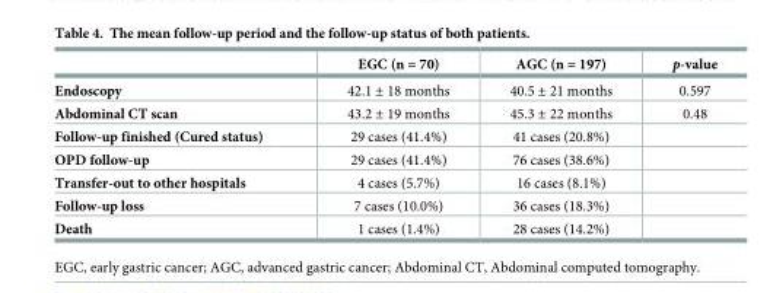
<table><thead><tr><td></td><td>EGC (n = 70)</td><td>AGC (n = 197)</td><td>p-value</td></tr></thead><tbody><tr><td>Endoscopy</td><td>42.1 ± 18 months</td><td>40.5 ± 21 months</td><td>0.597</td></tr><tr><td>Abdominal CT scan</td><td>43.2 ± 19 months</td><td>45.3 ± 22 months</td><td>0.48</td></tr><tr><td>Follow-up finished (Cured status)</td><td>29 cases (41.4%)</td><td>41 cases (20.8%)</td><td></td></tr><tr><td>OPD follow-up</td><td>29 cases (41.4%)</td><td>76 cases (38.6%)</td><td></td></tr><tr><td>Transfer-out to other hospitals</td><td>4 cases (5.7%)</td><td>16 cases (8.1%)</td><td></td></tr><tr><td>Follow-up loss</td><td>7 cases (10.0%)</td><td>36 cases (18.3%)</td><td></td></tr><tr><td>Death</td><td>1 cases (1.4%)</td><td>28 cases (14.2%)</td><td></td></tr></tbody></table>